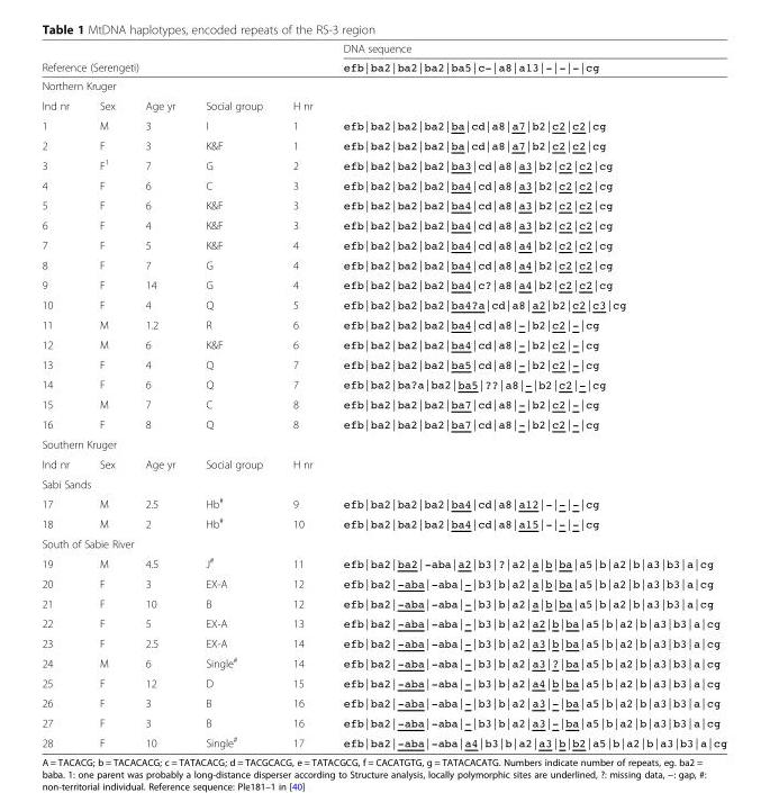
<table><thead><tr><td></td><td></td><td></td><td></td><td></td><td rowspan="2">DNA sequence efb|ba2|ba2|ba2|ba5|c-|a8|a13|-|-|-|cg</td></tr><tr><td colspan="5">Reference (Serengeti)</td></tr></thead><tbody><tr><td colspan="6">Northern Kruger</td></tr><tr><td>Ind nr</td><td>Sex</td><td>Age yr</td><td>Social group</td><td>H nr</td><td></td></tr><tr><td>1</td><td>M</td><td>3</td><td>I</td><td>1</td><td>efb|ba2|ba2|ba2|ba|cd|a8|a7|b2|c2|c2|cg</td></tr><tr><td>2</td><td>F</td><td>3</td><td>K&amp;F</td><td>1</td><td>efb|ba2|ba2|ba2|ba|cd|a8|a7|b2|c2|c2|cg</td></tr><tr><td>3</td><td>F<sup>1</sup></td><td>7</td><td>G</td><td>2</td><td>efb|ba2|ba2|ba2|ba3|cd|a8|a3|b2|c2|c2|cg</td></tr><tr><td>4</td><td>F</td><td>6</td><td>C</td><td>3</td><td>efb|ba2|ba2|ba2|ba4|cd|a8|a3|b2|c2|c2|cg</td></tr><tr><td>5</td><td>F</td><td>6</td><td>K&amp;F</td><td>3</td><td>efb|ba2|ba2|ba2|ba4|cd|a8|a3|b2|c2|c2|cg</td></tr><tr><td>6</td><td>F</td><td>4</td><td>K&amp;F</td><td>3</td><td>efb|ba2|ba2|ba2|ba4|cd|a8|a3|b2|c2|c2|cg</td></tr><tr><td>7</td><td>F</td><td>5</td><td>K&amp;F</td><td>4</td><td>efb|ba2|ba2|ba2|ba4|cd|a8|a4|b2|c2|c2|cg</td></tr><tr><td>8</td><td>F</td><td>7</td><td>G</td><td>4</td><td>efb|ba2|ba2|ba2|ba4|cd|a8|a4|b2|c2|c2|cg</td></tr><tr><td>9</td><td>F</td><td>14</td><td>G</td><td>4</td><td>efb|ba2|ba2|ba2|ba4|c?|a8|a4|b2|c2|c2|cg</td></tr><tr><td>10</td><td>F</td><td>4</td><td>Q</td><td>5</td><td>efb|ba2|ba2|ba2|ba4?a|cd|a8|a2|b2|c2|c3|cg</td></tr><tr><td>11</td><td>M</td><td>1.2</td><td>R</td><td>6</td><td>efb|ba2|ba2|ba2|ba4|cd|a8|-|b2|c2|-|cg</td></tr><tr><td>12</td><td>M</td><td>6</td><td>K&amp;F</td><td>6</td><td>efb|ba2|ba2|ba2|ba4|cd|a8|-|b2|c2|-|cg</td></tr><tr><td>13</td><td>F</td><td>4</td><td>Q</td><td>7</td><td>efb|ba2|ba2|ba2|ba5|cd|a8|-|b2|c2|-|cg</td></tr><tr><td>14</td><td>F</td><td>6</td><td>Q</td><td>7</td><td>efb|ba2|ba?a|ba2|ba5|??|a8|-|b2|c2|-|cg</td></tr><tr><td>15</td><td>M</td><td>7</td><td>C</td><td>8</td><td>efb|ba2|ba2|ba2|ba7|cd|a8|-|b2|c2|-|cg</td></tr><tr><td>16</td><td>F</td><td>8</td><td>Q</td><td>8</td><td>efb|ba2|ba2|ba2|ba7|cd|a8|-|b2|c2|-|cg</td></tr><tr><td colspan="6">Southern Kruger</td></tr><tr><td>Ind nr</td><td>Sex</td><td>Age yr</td><td>Social group</td><td>H nr</td><td></td></tr><tr><td colspan="6">Sabi Sands</td></tr><tr><td>17</td><td>M</td><td>2.5</td><td>Hb<sup>#</sup></td><td>9</td><td>efb|ba2|ba2|ba2|ba4|cd|a8|a12|-|-|-|cg</td></tr><tr><td>18</td><td>M</td><td>2</td><td>Hb<sup>#</sup></td><td>10</td><td>efb|ba2|ba2|ba2|ba4|cd|a8|a15|-|-|-|cg</td></tr><tr><td colspan="6">South of Sabie River</td></tr><tr><td>19</td><td>M</td><td>4.5</td><td>J<sup>#</sup></td><td>11</td><td>efb|ba2|ba2|-aba|a2|b3|?|a2|a|b|ba|a5|b|a2|b|a3|b3|a|cg</td></tr><tr><td>20</td><td>F</td><td>3</td><td>EX-A</td><td>12</td><td>efb|ba2|-aba|-aba|-|b3|b|a2|a|b|ba|a5|b|a2|b|a3|b3|a|cg</td></tr><tr><td>21</td><td>F</td><td>10</td><td>B</td><td>12</td><td>efb|ba2|-aba|-aba|-|b3|b|a2|a|b|ba|a5|b|a2|b|a3|b3|a|cg</td></tr><tr><td>22</td><td>F</td><td>5</td><td>EX-A</td><td>13</td><td>efb|ba2|-aba|-aba|-|b3|b|a2|a2|b|ba|a5|b|a2|b|a3|b3|a|cg</td></tr><tr><td>23</td><td>F</td><td>2.5</td><td>EX-A</td><td>14</td><td>efb|ba2|-aba|-aba|-|b3|b|a2|a3|b|ba|a5|b|a2|b|a3|b3|a|cg</td></tr><tr><td>24</td><td>M</td><td>6</td><td>Single<sup>#</sup></td><td>14</td><td>efb|ba2|-aba|-aba|-|b3|b|a2|a3|?|ba|a5|b|a2|b|a3|b3|a|cg</td></tr><tr><td>25</td><td>F</td><td>12</td><td>D</td><td>15</td><td>efb|ba2|-aba|-aba|-|b3|b|a2|a4|b|ba|a5|b|a2|b|a3|b3|a|cg</td></tr><tr><td>26</td><td>F</td><td>3</td><td>B</td><td>16</td><td>efb|ba2|-aba|-aba|-|b3|b|a2|a3|-|ba|a5|b|a2|b|a3|b3|a|cg</td></tr><tr><td>27</td><td>F</td><td>3</td><td>B</td><td>16</td><td>efb|ba2|-aba|-aba|-|b3|b|a2|a3|-|ba|a5|b|a2|b|a3|b3|a|cg</td></tr><tr><td>28</td><td>F</td><td>10</td><td>Single<sup>#</sup></td><td>17</td><td>efb|ba2|-aba|-aba|a4|b3|b|a2|a3|b|b2|a5|b|a2|b|a3|b3|a|cg</td></tr></tbody></table>